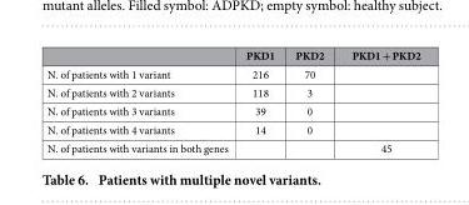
<table><thead><tr><td></td><td>PKD1</td><td>PKD2</td><td>PKD1 + PKD2</td></tr></thead><tbody><tr><td>N. of patients with 1 variant</td><td>216</td><td>70</td><td></td></tr><tr><td>N. of patients with 2 variants</td><td>118</td><td>3</td><td></td></tr><tr><td>N. of patients with 3 variants</td><td>39</td><td>0</td><td></td></tr><tr><td>N. of patients with 4 variants</td><td>14</td><td>0</td><td></td></tr><tr><td>N. of patients with variants in both genes</td><td></td><td></td><td>45</td></tr></tbody></table>